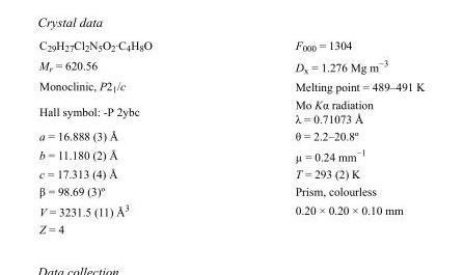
<table><tbody><tr><td>C<sub>29</sub>H<sub>27</sub>Cl<sub>2</sub>N<sub>5</sub>O<sub>2</sub>·C<sub>4</sub>H<sub>8</sub>O</td><td>F<sub>000</sub> = 1304</td></tr><tr><td>M<sub>r</sub> = 620.56</td><td>D<sub>x</sub> = 1.276 Mg m<sup>−3</sup></td></tr><tr><td>Monoclinic, P2<sub>1</sub>/c</td><td>Melting point = 489–491 K</td></tr><tr><td>Hall symbol: -P 2ybc</td><td>Mo Kα radiation λ = 0.71073 Å</td></tr><tr><td>a = 16.888 (3) Å</td><td>θ = 2.2–20.8º</td></tr><tr><td>b = 11.180 (2) Å</td><td>µ = 0.24 mm<sup>−1</sup></td></tr><tr><td>c = 17.313 (4) Å</td><td>T = 293 (2) K</td></tr><tr><td>β = 98.69 (3)º</td><td>Prism, colourless</td></tr><tr><td>V = 3231.5 (11) Å<sup>3</sup></td><td>0.20 × 0.20 × 0.10 mm</td></tr><tr><td>Z = 4</td><td></td></tr></tbody></table>